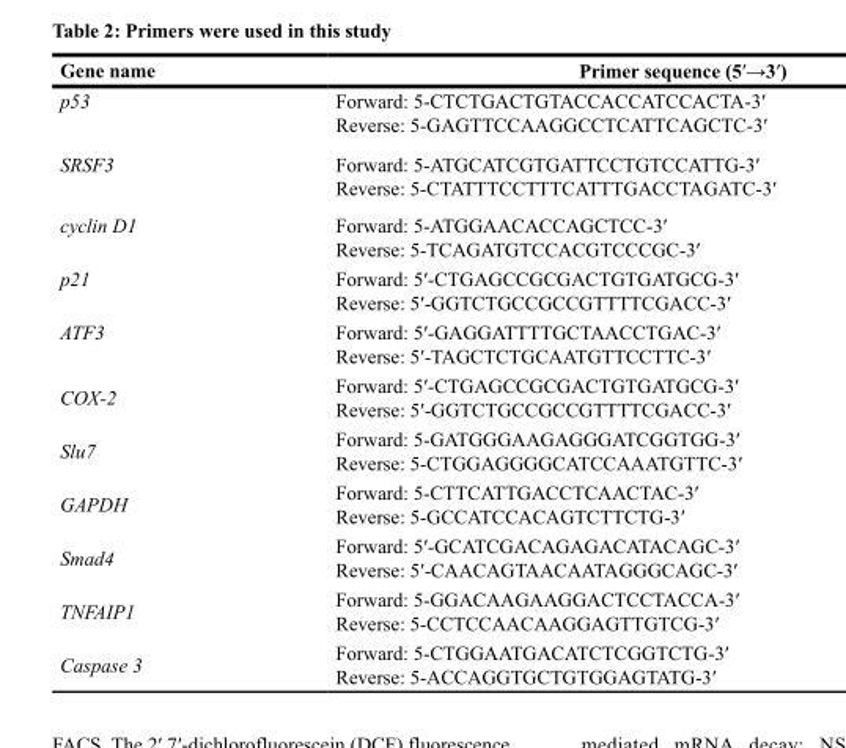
<table><thead><tr><td>Gene name</td><td>Primer sequence (5′→3′)</td></tr></thead><tbody><tr><td>p53</td><td>Forward: 5-CTCTGACTGTACCACCATCCACTA-3′ Reverse: 5-GAGTTCCAAGGCCTCATTCAGCTC-3′</td></tr><tr><td>SRSF3</td><td>Forward: 5-ATGCATCGTGATTCCTGTCCATTG-3′ Reverse: 5-CTATTTCCTTTCATTTGACCTAGATC-3′</td></tr><tr><td>cyclin D1</td><td>Forward: 5-ATGGAACACCAGCTCC-3′ Reverse: 5-TCAGATGTCCACGTCCCGC-3′</td></tr><tr><td>p21</td><td>Forward: 5′-CTGAGCCGCGACTGTGATGCG-3′ Reverse: 5′-GGTCTGCCGCCGTTTTCGACC-3′</td></tr><tr><td>ATF3</td><td>Forward: 5′-GAGGATTTTGCTAACCTGAC-3′ Reverse: 5′-TAGCTCTGCAATGTTCCTTC-3′</td></tr><tr><td>COX-2</td><td>Forward: 5′-CTGAGCCGCGACTGTGATGCG-3′ Reverse: 5′-GGTCTGCCGCCGTTTTCGACC-3′</td></tr><tr><td>Slu7</td><td>Forward: 5-GATGGGAAGAGGGATCGGTGG-3′ Reverse: 5-CTGGAGGGGCATCCAAATGTTC-3′</td></tr><tr><td>GAPDH</td><td>Forward: 5-CTTCATTGACCTCAACTAC-3′ Reverse: 5-GCCATCCACAGTCTTCTG-3′</td></tr><tr><td>Smad4</td><td>Forward: 5′-GCATCGACAGAGACATACAGC-3′ Reverse: 5′-CAACAGTAACAATAGGGCAGC-3′</td></tr><tr><td>TNFAIP1</td><td>Forward: 5-GGACAAGAAGGACTCCTACCA-3′ Reverse: 5-CCTCCAACAAGGAGTTGTCG-3′</td></tr><tr><td>Caspase 3</td><td>Forward: 5-CTGGAATGACATCTCGGTCTG-3′ Reverse: 5-ACCAGGTGCTGTGGAGTATG-3′</td></tr></tbody></table>